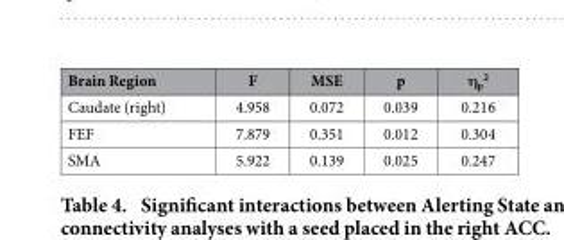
<table><thead><tr><td>Brain Region</td><td>F</td><td>MSE</td><td>p</td><td>η <sub>p</sub> <sup>2</sup></td></tr></thead><tbody><tr><td>Caudate (right)</td><td>4.958</td><td>0.072</td><td>0.039</td><td>0.216</td></tr><tr><td>FEF</td><td>7.879</td><td>0.351</td><td>0.012</td><td>0.304</td></tr><tr><td>SMA</td><td>5.922</td><td>0.139</td><td>0.025</td><td>0.247</td></tr></tbody></table>